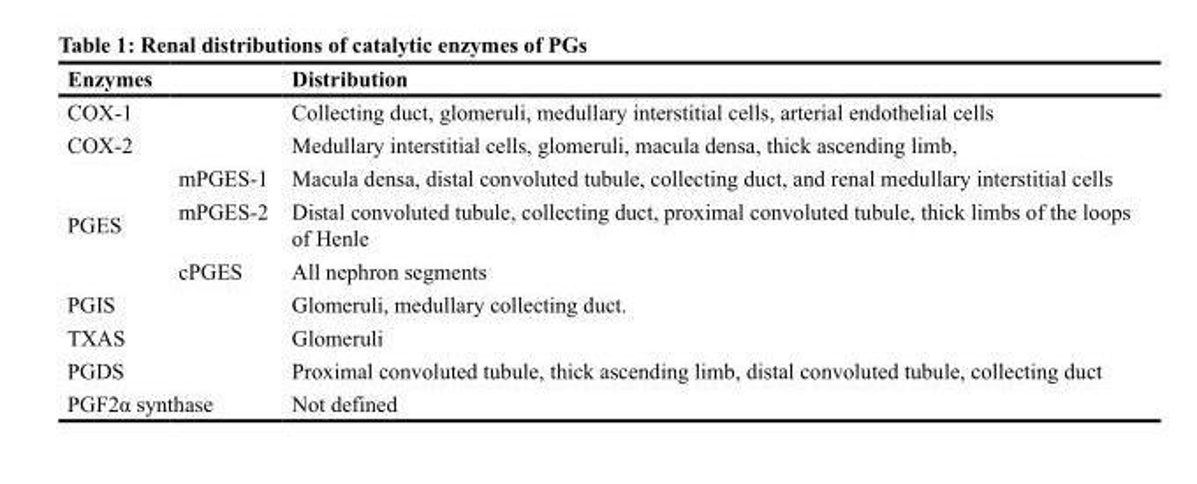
<table><thead><tr><td>Enzymes</td><td></td><td>Distribution</td></tr></thead><tbody><tr><td>COX-1</td><td></td><td>Collecting duct, glomeruli, medullary interstitial cells, arterial endothelial cells</td></tr><tr><td>COX-2</td><td></td><td>Medullary interstitial cells, glomeruli, macula densa, thick ascending limb,</td></tr><tr><td rowspan="3">PGES</td><td>mPGES-1</td><td>Macula densa, distal convoluted tubule, collecting duct, and renal medullary interstitial cells</td></tr><tr><td>mPGES-2</td><td>Distal convoluted tubule, collecting duct, proximal convoluted tubule, thick limbs of the loops of Henle</td></tr><tr><td>cPGES</td><td>All nephron segments</td></tr><tr><td colspan="2">PGIS</td><td>Glomeruli, medullary collecting duct.</td></tr><tr><td colspan="2">TXAS</td><td>Glomeruli</td></tr><tr><td colspan="2">PGDS</td><td>Proximal convoluted tubule, thick ascending limb, distal convoluted tubule, collecting duct</td></tr><tr><td colspan="2">PGF2α synthase</td><td>Not defined</td></tr></tbody></table>